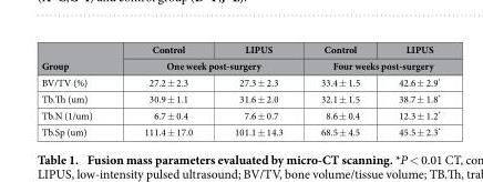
<table><thead><tr><td rowspan="2">Group</td><td>Control</td><td>LIPUS</td><td>Control</td><td>LIPUS</td></tr><tr><td colspan="2">One week post-surgery</td><td colspan="2">Four weeks post-surgery</td></tr></thead><tbody><tr><td>BV/TV (%)</td><td>27.2 ± 2.3</td><td>27.3 ± 2.3</td><td>33.4 ± 1.5</td><td>42.6 ± 2.9*</td></tr><tr><td>Tb.Th (um)</td><td>30.9 ± 1.1</td><td>31.6 ± 2.0</td><td>32.1 ± 1.5</td><td>38.7 ± 1.8*</td></tr><tr><td>Tb.N (1/um)</td><td>6.7 ± 0.4</td><td>7.6 ± 0.7</td><td>8.6 ± 0.4</td><td>12.3 ± 1.2*</td></tr><tr><td>Tb.Sp (um)</td><td>111.4 ± 17.0</td><td>101.1 ± 14.3</td><td>68.5 ± 4.5</td><td>45.5 ± 2.3*</td></tr></tbody></table>